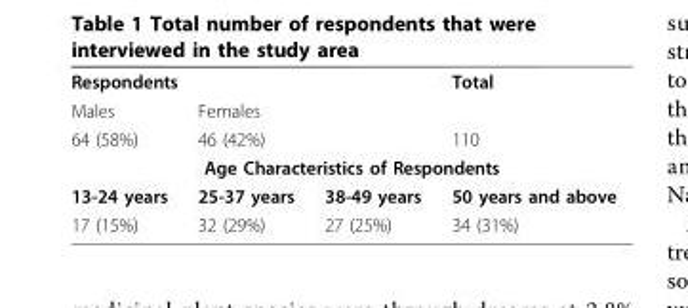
<table><tbody><tr><td colspan="3">Respondents</td><td>Total</td></tr><tr><td>Males</td><td colspan="2">Females</td><td></td></tr><tr><td>64 (58%)</td><td colspan="2">46 (42%)</td><td>110</td></tr><tr><td colspan="4">Age Characteristics of Respondents</td></tr><tr><td>13-24 years</td><td>25-37 years</td><td>38-49 years</td><td>50 years and above</td></tr><tr><td>17 (15%)</td><td>32 (29%)</td><td>27 (25%)</td><td>34 (31%)</td></tr></tbody></table>